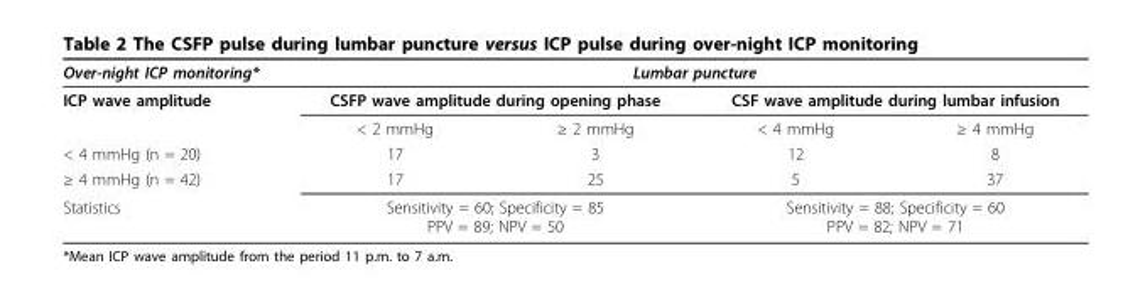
<table><tbody><tr><td>Over-night ICP monitoring*</td><td colspan="4">Lumbar puncture</td></tr><tr><td rowspan="2">ICP wave amplitude</td><td colspan="2">CSFP wave amplitude during opening phase</td><td colspan="2">CSF wave amplitude during lumbar infusion</td></tr><tr><td>&lt; 2 mmHg</td><td>≥ 2 mmHg</td><td>&lt; 4 mmHg</td><td>≥ 4 mmHg</td></tr><tr><td>&lt; 4 mmHg (n = 20)</td><td>17</td><td>3</td><td>12</td><td>8</td></tr><tr><td>≥ 4 mmHg (n = 42)</td><td>17</td><td>25</td><td>5</td><td>37</td></tr><tr><td>Statistics</td><td colspan="2">Sensitivity = 60; Specificity = 85 PPV = 89; NPV = 50</td><td colspan="2">Sensitivity = 88; Specificity = 60 PPV = 82; NPV = 71</td></tr></tbody></table>